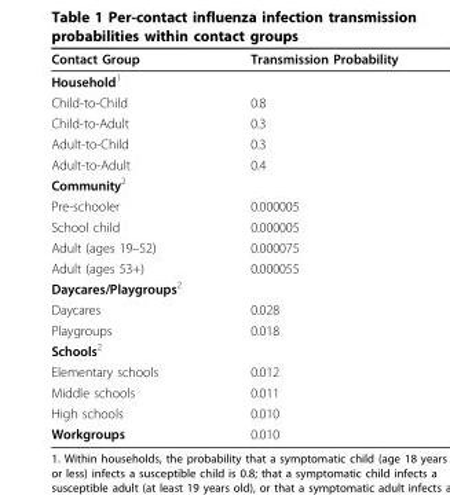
<table><thead><tr><td>Contact Group</td><td>Transmission Probability</td></tr></thead><tbody><tr><td colspan="2">Household<sup>1</sup></td></tr><tr><td>Child-to-Child</td><td>0.8</td></tr><tr><td>Child-to-Adult</td><td>0.3</td></tr><tr><td>Adult-to-Child</td><td>0.3</td></tr><tr><td>Adult-to-Adult</td><td>0.4</td></tr><tr><td colspan="2">Community<sup>2</sup></td></tr><tr><td>Pre-schooler</td><td>0.000005</td></tr><tr><td>School child</td><td>0.000005</td></tr><tr><td>Adult (ages 19–52)</td><td>0.000075</td></tr><tr><td>Adult (ages 53+)</td><td>0.000055</td></tr><tr><td colspan="2">Daycares/Playgroups<sup>2</sup></td></tr><tr><td>Daycares</td><td>0.028</td></tr><tr><td>Playgroups</td><td>0.018</td></tr><tr><td colspan="2">Schools<sup>2</sup></td></tr><tr><td>Elementary schools</td><td>0.012</td></tr><tr><td>Middle schools</td><td>0.011</td></tr><tr><td>High schools</td><td>0.010</td></tr><tr><td>Workgroups</td><td>0.010</td></tr></tbody></table>